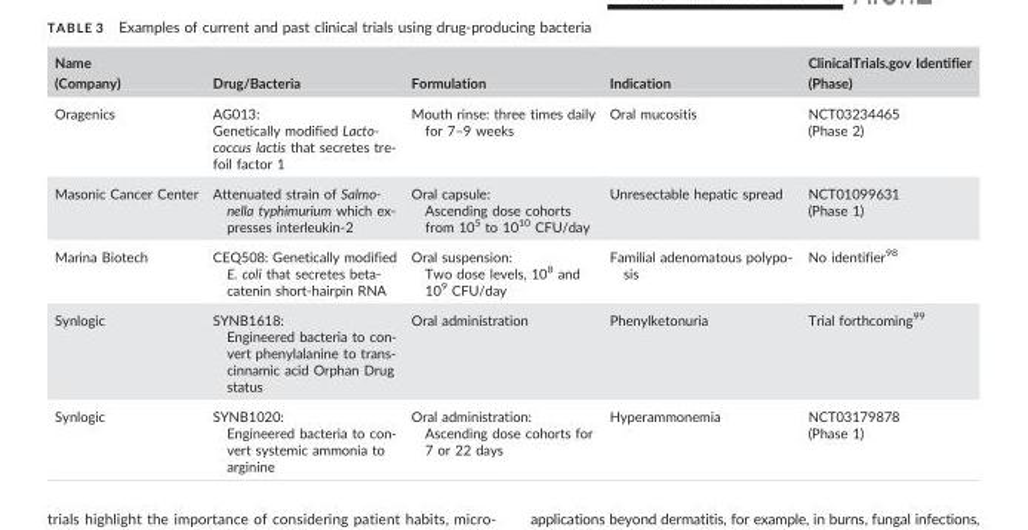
<table><thead><tr><td>Name (Company)</td><td>Drug/Bacteria</td><td>Formulation</td><td>Indication</td><td>ClinicalTrials.gov Identifier (Phase)</td></tr></thead><tbody><tr><td>Oragenics</td><td>AG013: Genetically modified Lacto- coccus lactis that secretes tre- foil factor 1</td><td>Mouth rinse: three times daily for 7–9 weeks</td><td>Oral mucositis</td><td>NCT03234465 (Phase 2)</td></tr><tr><td>Masonic Cancer Center</td><td>Attenuated strain of Salmo- nella typhimurium which ex- presses interleukin-2</td><td>Oral capsule: Ascending dose cohorts from 10<sup>5</sup> to 10<sup>10</sup> CFU/day</td><td>Unresectable hepatic spread</td><td>NCT01099631 (Phase 1)</td></tr><tr><td>Marina Biotech</td><td>CEQ508: Genetically modified E. coli that secretes beta- catenin short-hairpin RNA</td><td>Oral suspension: Two dose levels, 10<sup>8</sup> and 10<sup>9</sup> CFU/day</td><td>Familial adenomatous polypo- sis</td><td>No identifier<sup>98</sup></td></tr><tr><td>Synlogic</td><td>SYNB1618: Engineered bacteria to con- vert phenylalanine to trans- cinnamic acid Orphan Drug status</td><td>Oral administration</td><td>Phenylketonuria</td><td>Trial forthcoming<sup>99</sup></td></tr><tr><td>Synlogic</td><td>SYNB1020: Engineered bacteria to con- vert systemic ammonia to arginine</td><td>Oral administration: Ascending dose cohorts for 7 or 22 days</td><td>Hyperammonemia</td><td>NCT03179878 (Phase 1)</td></tr></tbody></table>